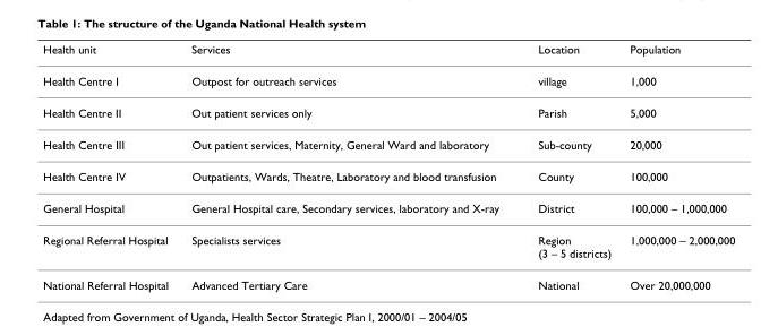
<table><thead><tr><td>Health unit</td><td>Services</td><td>Location</td><td>Population</td></tr></thead><tbody><tr><td>Health Centre I</td><td>Outpost for outreach services</td><td>village</td><td>1,000</td></tr><tr><td>Health Centre II</td><td>Out patient services only</td><td>Parish</td><td>5,000</td></tr><tr><td>Health Centre III</td><td>Out patient services, Maternity, General Ward and laboratory</td><td>Sub-county</td><td>20,000</td></tr><tr><td>Health Centre IV</td><td>Outpatients, Wards, Theatre, Laboratory and blood transfusion</td><td>County</td><td>100,000</td></tr><tr><td>General Hospital</td><td>General Hospital care, Secondary services, laboratory and X-ray</td><td>District</td><td>100,000 – 1,000,000</td></tr><tr><td>Regional Referral Hospital</td><td>Specialists services</td><td>Region (3 – 5 districts)</td><td>1,000,000 – 2,000,000</td></tr><tr><td>National Referral Hospital</td><td>Advanced Tertiary Care</td><td>National</td><td>Over 20,000,000</td></tr></tbody></table>